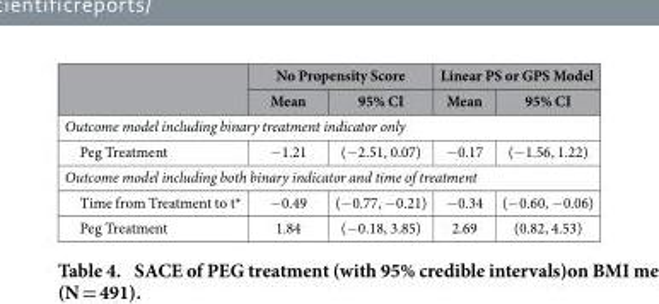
<table><thead><tr><td rowspan="2"></td><td colspan="2">No Propensity Score</td><td colspan="2">Linear PS or GPS Model</td></tr><tr><td>Mean</td><td>95% CI</td><td>Mean</td><td>95% CI</td></tr></thead><tbody><tr><td colspan="5">Outcome model including binary treatment indicator only</td></tr><tr><td>Peg Treatment</td><td>− 1.21</td><td>(− 2.51, 0.07)</td><td>− 0.17</td><td>(− 1.56, 1.22)</td></tr><tr><td colspan="5">Outcome model including both binary indicator and time of treatment</td></tr><tr><td>Time from Treatment to t*</td><td>− 0.49</td><td>(− 0.77, − 0.21)</td><td>− 0.34</td><td>(− 0.60, − 0.06)</td></tr><tr><td>Peg Treatment</td><td>1.84</td><td>(− 0.18, 3.85)</td><td>2.69</td><td>(0.82, 4.53)</td></tr></tbody></table>